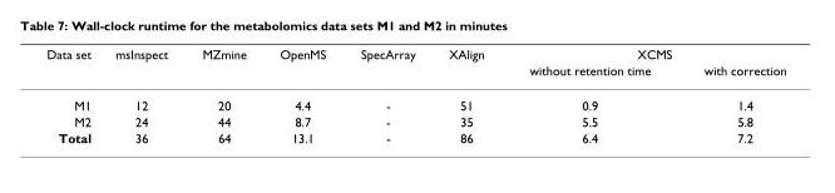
<table><thead><tr><td rowspan="2">Data set</td><td rowspan="2">msInspect</td><td rowspan="2">MZmine</td><td rowspan="2">OpenMS</td><td rowspan="2">SpecArray</td><td rowspan="2">XAlign</td><td colspan="2">XCMS</td></tr><tr><td>without retention time</td><td>with correction</td></tr></thead><tbody><tr><td>M1</td><td>12</td><td>20</td><td>4.4</td><td>-</td><td>51</td><td>0.9</td><td>1.4</td></tr><tr><td>M2</td><td>24</td><td>44</td><td>8.7</td><td>-</td><td>35</td><td>5.5</td><td>5.8</td></tr><tr><td>Total</td><td>36</td><td>64</td><td>13.1</td><td>-</td><td>86</td><td>6.4</td><td>7.2</td></tr></tbody></table>